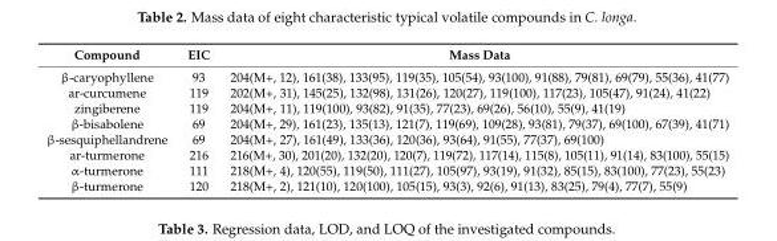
<table><thead><tr><td>Compound</td><td>EIC</td><td>Mass Data</td></tr></thead><tbody><tr><td>β-caryophyllene</td><td>93</td><td>204(M+, 12), 161(38), 133(95), 119(35), 105(54), 93(100), 91(88), 79(81), 69(79), 55(36), 41(77)</td></tr><tr><td>ar-curcumene</td><td>119</td><td>202(M+, 31), 145(25), 132(98), 131(26), 120(27), 119(100), 117(23), 105(47), 91(24), 41(22)</td></tr><tr><td>zingiberene</td><td>119</td><td>204(M+, 11), 119(100), 93(82), 91(35), 77(23), 69(26), 56(10), 55(9), 41(19)</td></tr><tr><td>β-bisabolene</td><td>69</td><td>204(M+, 29), 161(23), 135(13), 121(7), 119(69), 109(28), 93(81), 79(37), 69(100), 67(39), 41(71)</td></tr><tr><td>β-sesquiphellandrene</td><td>69</td><td>204(M+, 27), 161(49), 133(36), 120(36), 93(64), 91(55), 77(37), 69(100)</td></tr><tr><td>ar-turmerone</td><td>216</td><td>216(M+, 30), 201(20), 132(20), 120(7), 119(72), 117(14), 115(8), 105(11), 91(14), 83(100), 55(15)</td></tr><tr><td>α-turmerone</td><td>111</td><td>218(M+, 4), 120(55), 119(50), 111(27), 105(97), 93(19), 91(32), 85(15), 83(100), 77(23), 55(23)</td></tr><tr><td>β-turmerone</td><td>120</td><td>218(M+, 2), 121(10), 120(100), 105(15), 93(3), 92(6), 91(13), 83(25), 79(4), 77(7), 55(9)</td></tr></tbody></table>